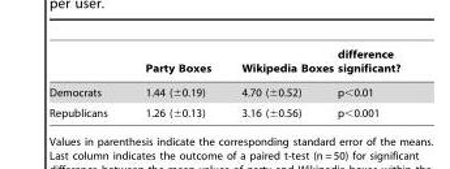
<table><thead><tr><td></td><td>Party Boxes</td><td>Wikipedia Boxes</td><td>difference significant?</td></tr></thead><tbody><tr><td>Democrats</td><td>1.44 (±0.19)</td><td>4.70 (±0.52)</td><td>p&lt;0.01</td></tr><tr><td>Republicans</td><td>1.26 (±0.13)</td><td>3.16 (±0.56)</td><td>p&lt;0.001</td></tr></tbody></table>